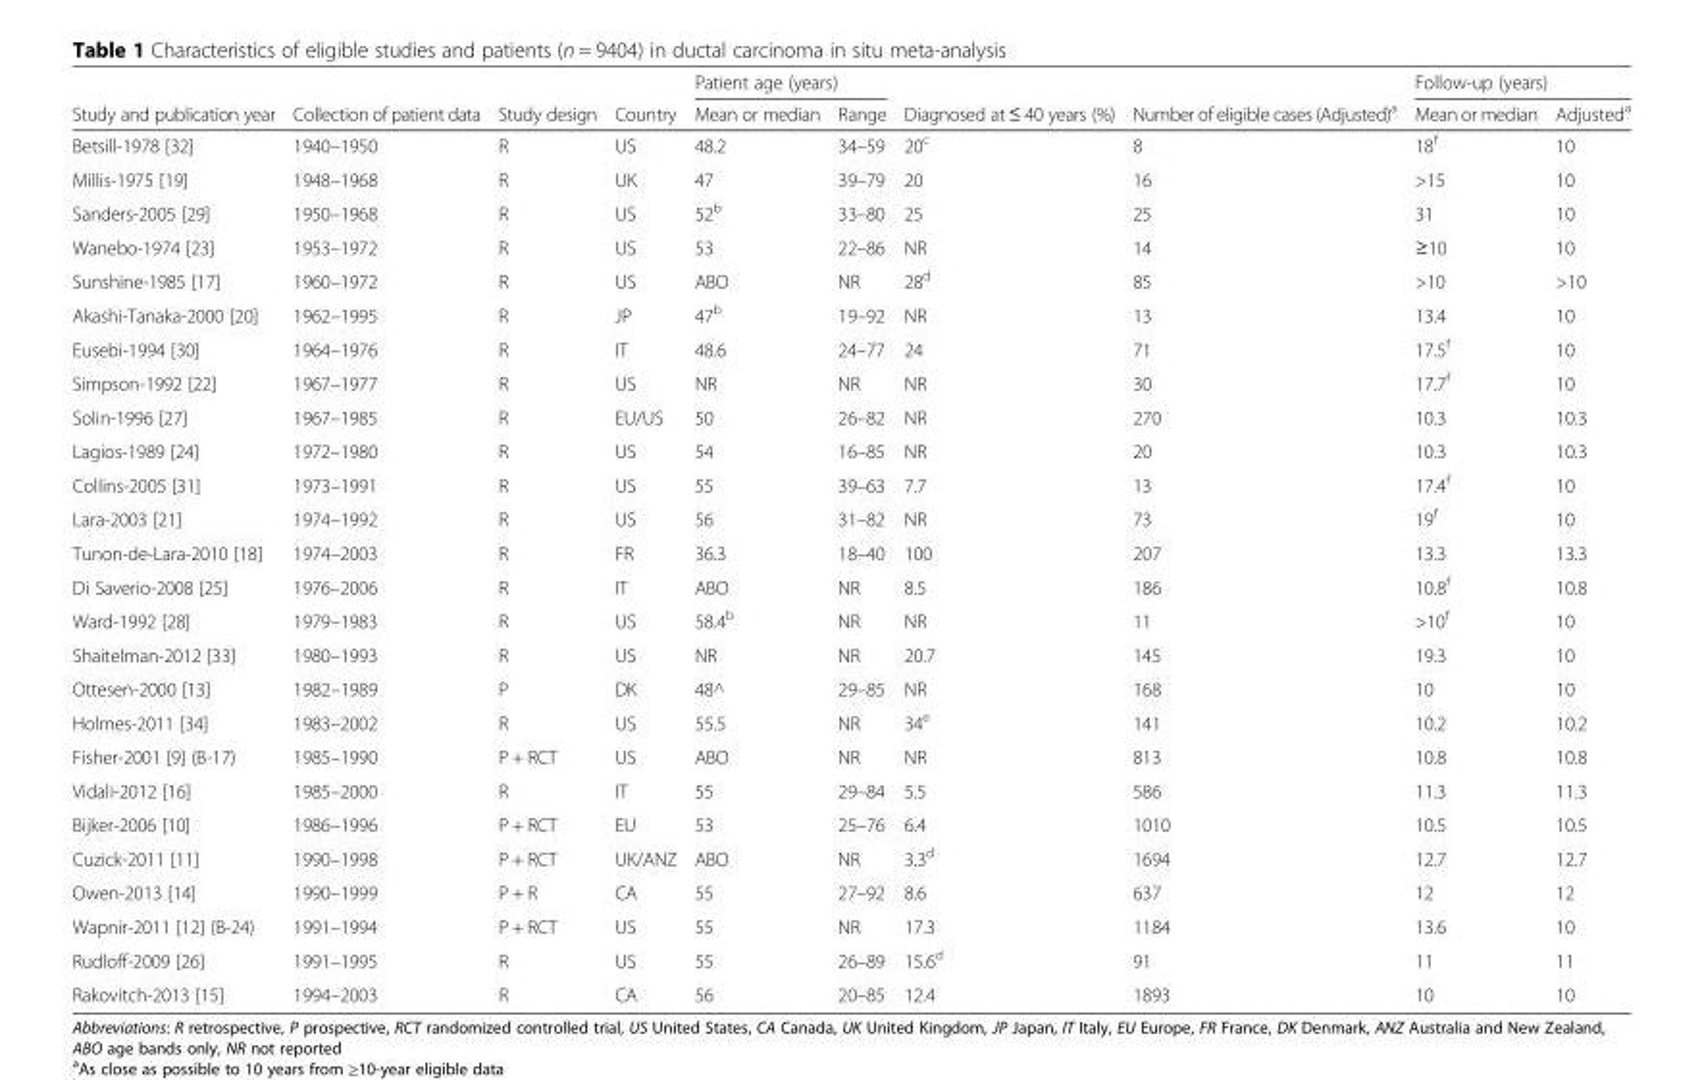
<table><thead><tr><td rowspan="2">Study and publication year</td><td rowspan="2">Collection of patient data</td><td rowspan="2">Study design</td><td rowspan="2">Country</td><td colspan="2">Patient age (years)</td><td rowspan="2">Diagnosed at ≤ 40 years (%)</td><td rowspan="2">Number of eligible cases (Adjusted)<sup>a</sup></td><td colspan="2">Follow-up (years)</td></tr><tr><td>Mean or median</td><td>Range</td><td>Mean or median</td><td>Adjusted<sup>a</sup></td></tr></thead><tbody><tr><td>Betsill-1978 [32]</td><td>1940–1950</td><td>R</td><td>US</td><td>48.2</td><td>34–59</td><td>20<sup>c</sup></td><td>8</td><td>18<sup>f</sup></td><td>10</td></tr><tr><td>Millis-1975 [19]</td><td>1948–1968</td><td>R</td><td>UK</td><td>47</td><td>39–79</td><td>20</td><td>16</td><td>&gt;15</td><td>10</td></tr><tr><td>Sanders-2005 [29]</td><td>1950–1968</td><td>R</td><td>US</td><td>52<sup>b</sup></td><td>33–80</td><td>25</td><td>25</td><td>31</td><td>10</td></tr><tr><td>Wanebo-1974 [23]</td><td>1953–1972</td><td>R</td><td>US</td><td>53</td><td>22–86</td><td>NR</td><td>14</td><td>≥10</td><td>10</td></tr><tr><td>Sunshine-1985 [17]</td><td>1960–1972</td><td>R</td><td>US</td><td>ABO</td><td>NR</td><td>28<sup>d</sup></td><td>85</td><td>&gt;10</td><td>&gt;10</td></tr><tr><td>Akashi-Tanaka-2000 [20]</td><td>1962–1995</td><td>R</td><td>JP</td><td>47<sup>b</sup></td><td>19–92</td><td>NR</td><td>13</td><td>13.4</td><td>10</td></tr><tr><td>Eusebi-1994 [30]</td><td>1964–1976</td><td>R</td><td>IT</td><td>48.6</td><td>24–77</td><td>24</td><td>71</td><td>17.5<sup>f</sup></td><td>10</td></tr><tr><td>Simpson-1992 [22]</td><td>1967–1977</td><td>R</td><td>US</td><td>NR</td><td>NR</td><td>NR</td><td>30</td><td>17.7<sup>f</sup></td><td>10</td></tr><tr><td>Solin-1996 [27]</td><td>1967–1985</td><td>R</td><td>EU/US</td><td>50</td><td>26–82</td><td>NR</td><td>270</td><td>10.3</td><td>10.3</td></tr><tr><td>Lagios-1989 [24]</td><td>1972–1980</td><td>R</td><td>US</td><td>54</td><td>16–85</td><td>NR</td><td>20</td><td>10.3</td><td>10.3</td></tr><tr><td>Collins-2005 [31]</td><td>1973–1991</td><td>R</td><td>US</td><td>55</td><td>39–63</td><td>7.7</td><td>13</td><td>17.4<sup>f</sup></td><td>10</td></tr><tr><td>Lara-2003 [21]</td><td>1974–1992</td><td>R</td><td>US</td><td>56</td><td>31–82</td><td>NR</td><td>73</td><td>19<sup>f</sup></td><td>10</td></tr><tr><td>Tunon-de-Lara-2010 [18]</td><td>1974–2003</td><td>R</td><td>FR</td><td>36.3</td><td>18–40</td><td>100</td><td>207</td><td>13.3</td><td>13.3</td></tr><tr><td>Di Saverio-2008 [25]</td><td>1976–2006</td><td>R</td><td>IT</td><td>ABO</td><td>NR</td><td>8.5</td><td>186</td><td>10.8<sup>f</sup></td><td>10.8</td></tr><tr><td>Ward-1992 [28]</td><td>1979–1983</td><td>R</td><td>US</td><td>58.4<sup>b</sup></td><td>NR</td><td>NR</td><td>11</td><td>&gt;10<sup>f</sup></td><td>10</td></tr><tr><td>Shaitelman-2012 [33]</td><td>1980–1993</td><td>R</td><td>US</td><td>NR</td><td>NR</td><td>20.7</td><td>145</td><td>19.3</td><td>10</td></tr><tr><td>Ottesen-2000 [13]</td><td>1982–1989</td><td>P</td><td>DK</td><td>48^</td><td>29–85</td><td>NR</td><td>168</td><td>10</td><td>10</td></tr><tr><td>Holmes-2011 [34]</td><td>1983–2002</td><td>R</td><td>US</td><td>55.5</td><td>NR</td><td>34<sup>e</sup></td><td>141</td><td>10.2</td><td>10.2</td></tr><tr><td>Fisher-2001 [9] (B-17)</td><td>1985–1990</td><td>P + RCT</td><td>US</td><td>ABO</td><td>NR</td><td>NR</td><td>813</td><td>10.8</td><td>10.8</td></tr><tr><td>Vidali-2012 [16]</td><td>1985–2000</td><td>R</td><td>IT</td><td>55</td><td>29–84</td><td>5.5</td><td>586</td><td>11.3</td><td>11.3</td></tr><tr><td>Bijker-2006 [10]</td><td>1986–1996</td><td>P + RCT</td><td>EU</td><td>53</td><td>25–76</td><td>6.4</td><td>1010</td><td>10.5</td><td>10.5</td></tr><tr><td>Cuzick-2011 [11]</td><td>1990–1998</td><td>P + RCT</td><td>UK/ANZ</td><td>ABO</td><td>NR</td><td>3.3<sup>d</sup></td><td>1694</td><td>12.7</td><td>12.7</td></tr><tr><td>Owen-2013 [14]</td><td>1990–1999</td><td>P + R</td><td>CA</td><td>55</td><td>27–92</td><td>8.6</td><td>637</td><td>12</td><td>12</td></tr><tr><td>Wapnir-2011 [12] (B-24)</td><td>1991–1994</td><td>P + RCT</td><td>US</td><td>55</td><td>NR</td><td>17.3</td><td>1184</td><td>13.6</td><td>10</td></tr><tr><td>Rudloff-2009 [26]</td><td>1991–1995</td><td>R</td><td>US</td><td>55</td><td>26–89</td><td>15.6<sup>d</sup></td><td>91</td><td>11</td><td>11</td></tr><tr><td>Rakovitch-2013 [15]</td><td>1994–2003</td><td>R</td><td>CA</td><td>56</td><td>20–85</td><td>12.4</td><td>1893</td><td>10</td><td>10</td></tr></tbody></table>